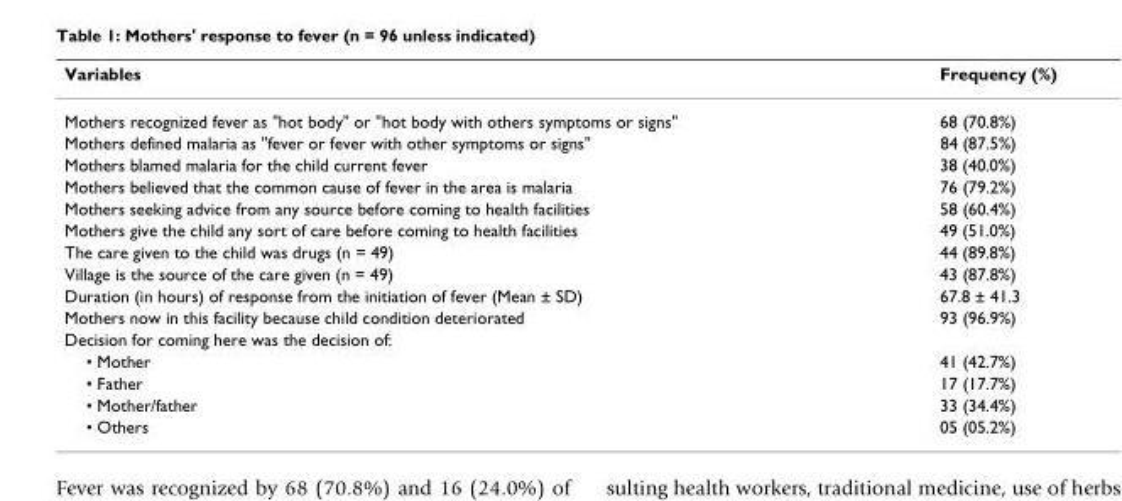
<table><thead><tr><td>Variables</td><td>Frequency (%)</td></tr></thead><tbody><tr><td>Mothers recognized fever as &quot;hot body&quot; or &quot;hot body with others symptoms or signs&quot;</td><td>68 (70.8%)</td></tr><tr><td>Mothers defined malaria as &quot;fever or fever with other symptoms or signs&quot;</td><td>84 (87.5%)</td></tr><tr><td>Mothers blamed malaria for the child current fever</td><td>38 (40.0%)</td></tr><tr><td>Mothers believed that the common cause of fever in the area is malaria</td><td>76 (79.2%)</td></tr><tr><td>Mothers seeking advice from any source before coming to health facilities</td><td>58 (60.4%)</td></tr><tr><td>Mothers give the child any sort of care before coming to health facilities</td><td>49 (51.0%)</td></tr><tr><td>The care given to the child was drugs (n = 49)</td><td>44 (89.8%)</td></tr><tr><td>Village is the source of the care given (n = 49)</td><td>43 (87.8%)</td></tr><tr><td>Duration (in hours) of response from the initiation of fever (Mean ± SD)</td><td>67.8 ± 41.3</td></tr><tr><td>Mothers now in this facility because child condition deteriorated</td><td>93 (96.9%)</td></tr><tr><td colspan="2">Decision for coming here was the decision of:</td></tr><tr><td>• Mother</td><td>41 (42.7%)</td></tr><tr><td>• Father</td><td>17 (17.7%)</td></tr><tr><td>• Mother/father</td><td>33 (34.4%)</td></tr><tr><td>• Others</td><td>05 (05.2%)</td></tr></tbody></table>